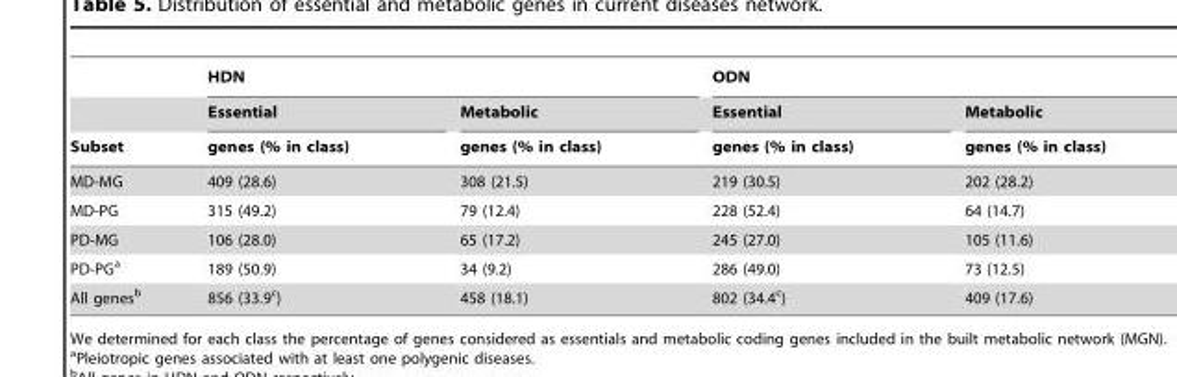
<table><thead><tr><td rowspan="3">Subset</td><td colspan="2">HDN</td><td colspan="2">ODN</td></tr><tr><td rowspan="2">Essential genes (% in class)</td><td rowspan="2">Metabolic genes (% in class)</td><td rowspan="2">Essential genes (% in class)</td><td rowspan="2">Metabolic genes (% in class)</td></tr><tr></tr></thead><tbody><tr><td>MD-MG</td><td>409 (28.6)</td><td>308 (21.5)</td><td>219 (30.5)</td><td>202 (28.2)</td></tr><tr><td>MD-PG</td><td>315 (49.2)</td><td>79 (12.4)</td><td>228 (52.4)</td><td>64 (14.7)</td></tr><tr><td>PD-MG</td><td>106 (28.0)</td><td>65 (17.2)</td><td>245 (27.0)</td><td>105 (11.6)</td></tr><tr><td>PD-PG<sup>a</sup></td><td>189 (50.9)</td><td>34 (9.2)</td><td>286 (49.0)</td><td>73 (12.5)</td></tr><tr><td>All genes<sup>b</sup></td><td>856 (33.9<sup>c</sup>)</td><td>458 (18.1)</td><td>802 (34.4<sup>c</sup>)</td><td>409 (17.6)</td></tr></tbody></table>